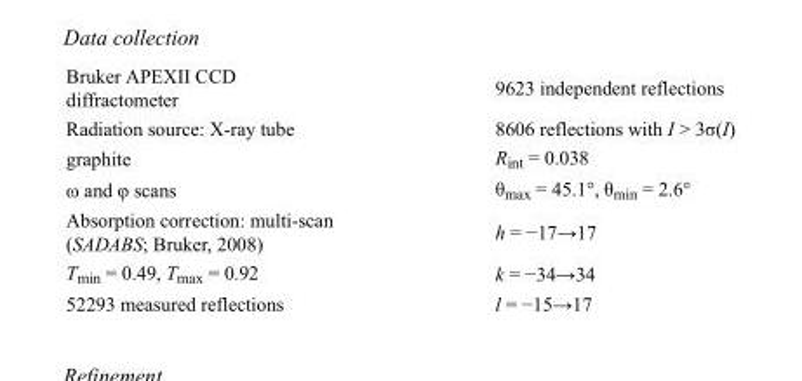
<table><tbody><tr><td>Bruker APEXII CCD diffractometer</td><td>9623 independent reflections</td></tr><tr><td>Radiation source: X-ray tube</td><td>8606 reflections with I &gt; 3σ(I)</td></tr><tr><td>graphite</td><td>R<sub>int</sub> = 0.038</td></tr><tr><td>ω and φ scans</td><td>θ<sub>max</sub> = 45.1°, θ<sub>min</sub> = 2.6°</td></tr><tr><td>Absorption correction: multi-scan (SADABS; Bruker, 2008)</td><td>h = −17→17</td></tr><tr><td>T<sub>min</sub> = 0.49, T<sub>max</sub> = 0.92</td><td>k = −34→34</td></tr><tr><td>52293 measured reflections</td><td>l = −15→17</td></tr></tbody></table>